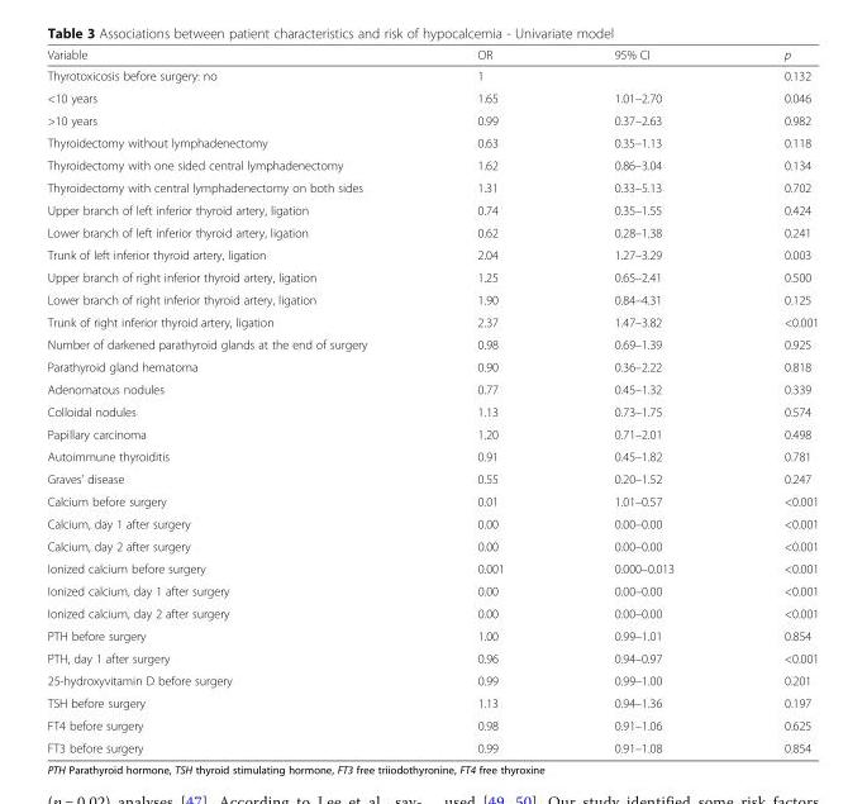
<table><thead><tr><td>Variable</td><td>OR</td><td>95% CI</td><td>p</td></tr></thead><tbody><tr><td>Thyrotoxicosis before surgery: no</td><td>1</td><td></td><td>0.132</td></tr><tr><td>&lt;10 years</td><td>1.65</td><td>1.01–2.70</td><td>0.046</td></tr><tr><td>&gt;10 years</td><td>0.99</td><td>0.37–2.63</td><td>0.982</td></tr><tr><td>Thyroidectomy without lymphadenectomy</td><td>0.63</td><td>0.35–1.13</td><td>0.118</td></tr><tr><td>Thyroidectomy with one sided central lymphadenectomy</td><td>1.62</td><td>0.86–3.04</td><td>0.134</td></tr><tr><td>Thyroidectomy with central lymphadenectomy on both sides</td><td>1.31</td><td>0.33–5.13</td><td>0.702</td></tr><tr><td>Upper branch of left inferior thyroid artery, ligation</td><td>0.74</td><td>0.35–1.55</td><td>0.424</td></tr><tr><td>Lower branch of left inferior thyroid artery, ligation</td><td>0.62</td><td>0.28–1.38</td><td>0.241</td></tr><tr><td>Trunk of left inferior thyroid artery, ligation</td><td>2.04</td><td>1.27–3.29</td><td>0.003</td></tr><tr><td>Upper branch of right inferior thyroid artery, ligation</td><td>1.25</td><td>0.65–2.41</td><td>0.500</td></tr><tr><td>Lower branch of right inferior thyroid artery, ligation</td><td>1.90</td><td>0.84–4.31</td><td>0.125</td></tr><tr><td>Trunk of right inferior thyroid artery, ligation</td><td>2.37</td><td>1.47–3.82</td><td>&lt;0.001</td></tr><tr><td>Number of darkened parathyroid glands at the end of surgery</td><td>0.98</td><td>0.69–1.39</td><td>0.925</td></tr><tr><td>Parathyroid gland hematoma</td><td>0.90</td><td>0.36–2.22</td><td>0.818</td></tr><tr><td>Adenomatous nodules</td><td>0.77</td><td>0.45–1.32</td><td>0.339</td></tr><tr><td>Colloidal nodules</td><td>1.13</td><td>0.73–1.75</td><td>0.574</td></tr><tr><td>Papillary carcinoma</td><td>1.20</td><td>0.71–2.01</td><td>0.498</td></tr><tr><td>Autoimmune thyroiditis</td><td>0.91</td><td>0.45–1.82</td><td>0.781</td></tr><tr><td>Graves’ disease</td><td>0.55</td><td>0.20–1.52</td><td>0.247</td></tr><tr><td>Calcium before surgery</td><td>0.01</td><td>1.01–0.57</td><td>&lt;0.001</td></tr><tr><td>Calcium, day 1 after surgery</td><td>0.00</td><td>0.00–0.00</td><td>&lt;0.001</td></tr><tr><td>Calcium, day 2 after surgery</td><td>0.00</td><td>0.00–0.00</td><td>&lt;0.001</td></tr><tr><td>Ionized calcium before surgery</td><td>0.001</td><td>0.000–0.013</td><td>&lt;0.001</td></tr><tr><td>Ionized calcium, day 1 after surgery</td><td>0.00</td><td>0.00–0.00</td><td>&lt;0.001</td></tr><tr><td>Ionized calcium, day 2 after surgery</td><td>0.00</td><td>0.00–0.00</td><td>&lt;0.001</td></tr><tr><td>PTH before surgery</td><td>1.00</td><td>0.99–1.01</td><td>0.854</td></tr><tr><td>PTH, day 1 after surgery</td><td>0.96</td><td>0.94–0.97</td><td>&lt;0.001</td></tr><tr><td>25-hydroxyvitamin D before surgery</td><td>0.99</td><td>0.99–1.00</td><td>0.201</td></tr><tr><td>TSH before surgery</td><td>1.13</td><td>0.94–1.36</td><td>0.197</td></tr><tr><td>FT4 before surgery</td><td>0.98</td><td>0.91–1.06</td><td>0.625</td></tr><tr><td>FT3 before surgery</td><td>0.99</td><td>0.91–1.08</td><td>0.854</td></tr></tbody></table>